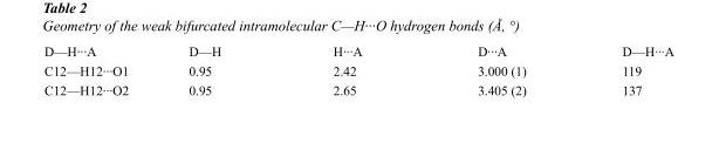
<table><tbody><tr><td>D—H···A</td><td>D—H</td><td>H···A</td><td>D···A</td><td>D—H···A</td></tr><tr><td>C12—H12···O1</td><td>0.95</td><td>2.42</td><td>3.000 (1)</td><td>119</td></tr><tr><td>C12—H12···O2</td><td>0.95</td><td>2.65</td><td>3.405 (2)</td><td>137</td></tr></tbody></table>